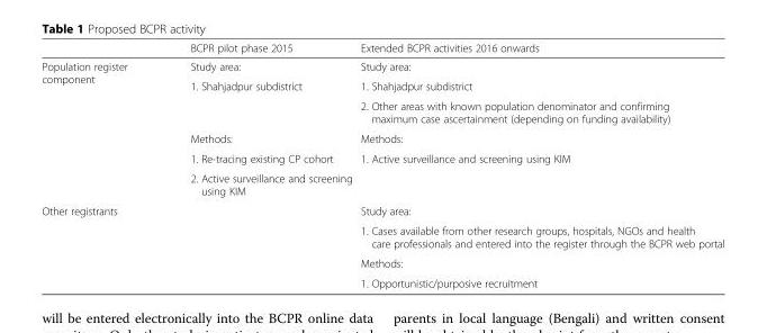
<table><thead><tr><td></td><td>BCPR pilot phase 2015</td><td>Extended BCPR activities 2016 onwards</td></tr></thead><tbody><tr><td rowspan="6">Population register component</td><td>Study area:</td><td>Study area:</td></tr><tr><td>1. Shahjadpur subdistrict</td><td>1. Shahjadpur subdistrict</td></tr><tr><td></td><td>2. Other areas with known population denominator and confirming maximum case ascertainment (depending on funding availability)</td></tr><tr><td>Methods:</td><td>Methods:</td></tr><tr><td>1. Re-tracing existing CP cohort</td><td>1. Active surveillance and screening using KIM</td></tr><tr><td>2. Active surveillance and screening using KIM</td><td></td></tr><tr><td rowspan="4">Other registrants</td><td rowspan="4"></td><td>Study area:</td></tr><tr><td>1. Cases available from other research groups, hospitals, NGOs and health care professionals and entered into the register through the BCPR web portal</td></tr><tr><td>Methods:</td></tr><tr><td>1. Opportunistic/purposive recruitment</td></tr></tbody></table>